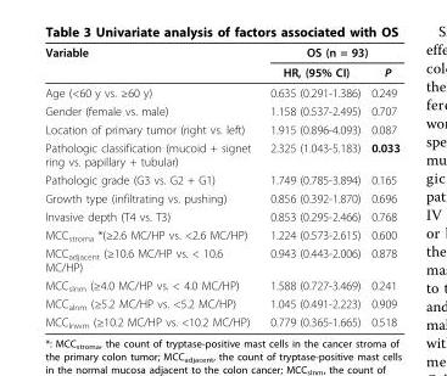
<table><thead><tr><td rowspan="2">Variable</td><td colspan="2">OS (n = 93)</td></tr><tr><td>HR, (95% CI)</td><td>P</td></tr></thead><tbody><tr><td>Age (&lt;60 y vs. ≥60 y)</td><td>0.635 (0.291-1.386)</td><td>0.249</td></tr><tr><td>Gender (female vs. male)</td><td>1.158 (0.537-2.495)</td><td>0.707</td></tr><tr><td>Location of primary tumor (right vs. left)</td><td>1.915 (0.896-4.093)</td><td>0.087</td></tr><tr><td>Pathologic classification (mucoid + signet ring vs. papillary + tubular)</td><td>2.325 (1.043-5.183)</td><td>0.033</td></tr><tr><td>Pathologic grade (G3 vs. G2 + G1)</td><td>1.749 (0.785-3.894)</td><td>0.165</td></tr><tr><td>Growth type (infiltrating vs. pushing)</td><td>0.856 (0.392-1.870)</td><td>0.696</td></tr><tr><td>Invasive depth (T4 vs. T3)</td><td>0.853 (0.295-2.466)</td><td>0.768</td></tr><tr><td>MCC<sub>stroma</sub> *(≥2.6 MC/HP vs. &lt;2.6 MC/HP)</td><td>1.224 (0.573-2.615)</td><td>0.600</td></tr><tr><td>MCC<sub>adjacent</sub> (≥10.6 MC/HP vs. &lt; 10.6 MC/HP)</td><td>0.943 (0.443-2.006)</td><td>0.878</td></tr><tr><td>MCC<sub>slnm</sub> (≥4.0 MC/HP vs. &lt; 4.0 MC/HP)</td><td>1.588 (0.727-3.469)</td><td>0.241</td></tr><tr><td>MCC<sub>alnm</sub> (≥5.2 MC/HP vs. &lt;5.2 MC/HP)</td><td>1.045 (0.491-2.223)</td><td>0.909</td></tr><tr><td>MCC<sub>lnwm</sub> (≥10.2 MC/HP vs. &lt;10.2 MC/HP)</td><td>0.779 (0.365-1.665)</td><td>0.518</td></tr></tbody></table>